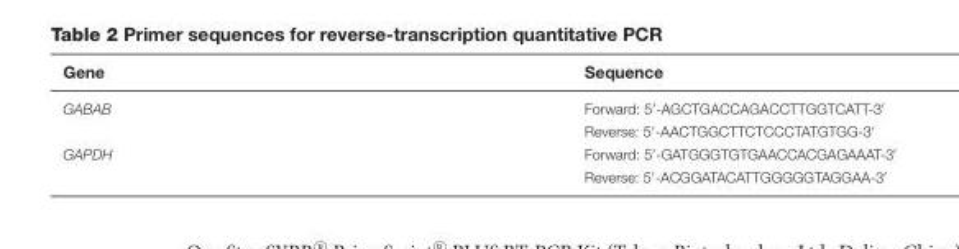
<table><thead><tr><td>Gene</td><td>Sequence</td></tr></thead><tbody><tr><td rowspan="2">GABAB</td><td>Forward: 5′-AGCTGACCAGACCTTGGTCATT-3′</td></tr><tr><td>Reverse: 5′-AACTGGCTTCTCCCTATGTGG-3′</td></tr><tr><td rowspan="2">GAPDH</td><td>Forward: 5′-GATGGGTGTGAACCACGAGAAAT-3′</td></tr><tr><td>Reverse: 5′-ACGGATACATTGGGGGTAGGAA-3′</td></tr></tbody></table>